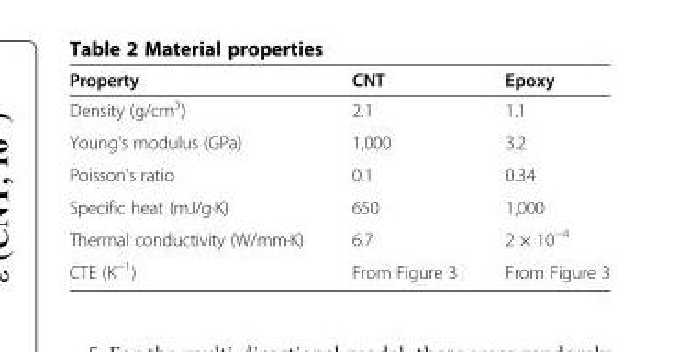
<table><thead><tr><td>Property</td><td>CNT</td><td>Epoxy</td></tr></thead><tbody><tr><td>Density (g/cm<sup>3</sup>)</td><td>2.1</td><td>1.1</td></tr><tr><td>Young&#x27;s modulus (GPa)</td><td>1,000</td><td>3.2</td></tr><tr><td>Poisson&#x27;s ratio</td><td>0.1</td><td>0.34</td></tr><tr><td>Specific heat (mJ/g·K)</td><td>650</td><td>1,000</td></tr><tr><td>Thermal conductivity (W/mm·K)</td><td>6.7</td><td>2 × 10<sup>−4</sup></td></tr><tr><td>CTE (K<sup>−1</sup>)</td><td>From Figure 3</td><td>From Figure 3</td></tr></tbody></table>